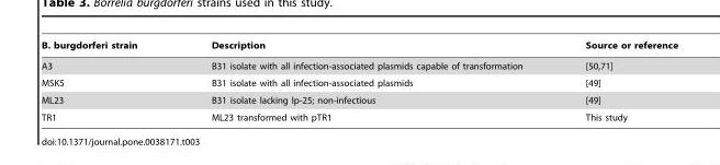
<table><thead><tr><td>B. burgdorferi strain</td><td>Description</td><td>Source or reference</td></tr></thead><tbody><tr><td>A3</td><td>B31 isolate with all infection-associated plasmids capable of transformation</td><td>[50,71]</td></tr><tr><td>MSK5</td><td>B31 isolate with all infection-associated plasmids</td><td>[49]</td></tr><tr><td>ML23</td><td>B31 isolate lacking lp-25; non-infectious</td><td>[49]</td></tr><tr><td>TR1</td><td>ML23 transformed with pTR1</td><td>This study</td></tr></tbody></table>